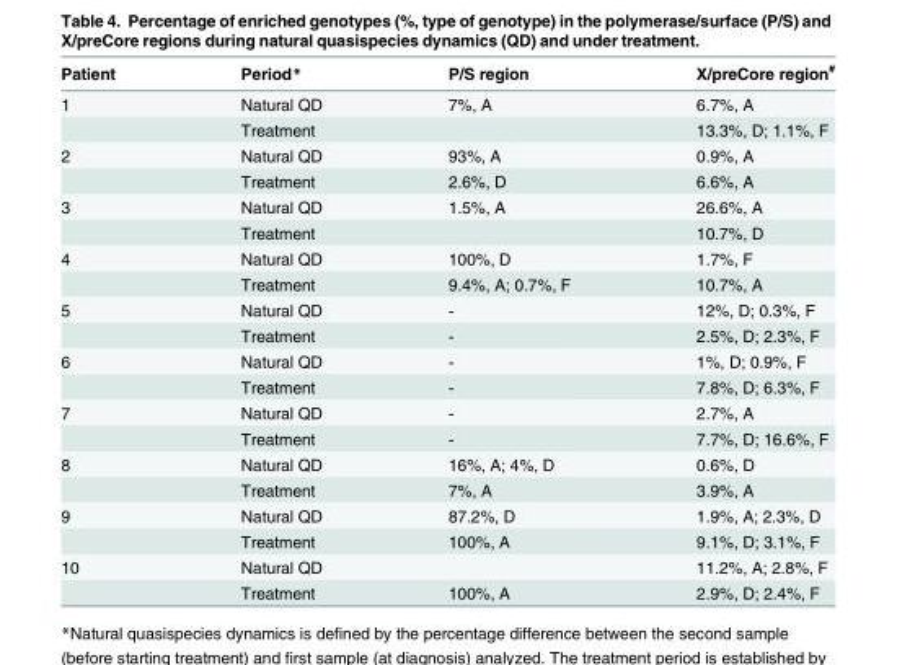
<table><thead><tr><td>Patient</td><td>Period*</td><td>P/S region</td><td>X/preCore region<sup>#</sup></td></tr></thead><tbody><tr><td rowspan="2">1</td><td>Natural QD</td><td>7%, A</td><td>6.7%, A</td></tr><tr><td>Treatment</td><td></td><td>13.3%, D; 1.1%, F</td></tr><tr><td rowspan="2">2</td><td>Natural QD</td><td>93%, A</td><td>0.9%, A</td></tr><tr><td>Treatment</td><td>2.6%, D</td><td>6.6%, A</td></tr><tr><td rowspan="2">3</td><td>Natural QD</td><td>1.5%, A</td><td>26.6%, A</td></tr><tr><td>Treatment</td><td></td><td>10.7%, D</td></tr><tr><td rowspan="2">4</td><td>Natural QD</td><td>100%, D</td><td>1.7%, F</td></tr><tr><td>Treatment</td><td>9.4%, A; 0.7%, F</td><td>10.7%, A</td></tr><tr><td rowspan="2">5</td><td>Natural QD</td><td>-</td><td>12%, D; 0.3%, F</td></tr><tr><td>Treatment</td><td>-</td><td>2.5%, D; 2.3%, F</td></tr><tr><td rowspan="2">6</td><td>Natural QD</td><td>-</td><td>1%, D; 0.9%, F</td></tr><tr><td>Treatment</td><td>-</td><td>7.8%, D; 6.3%, F</td></tr><tr><td rowspan="2">7</td><td>Natural QD</td><td>-</td><td>2.7%, A</td></tr><tr><td>Treatment</td><td>-</td><td>7.7%, D; 16.6%, F</td></tr><tr><td rowspan="2">8</td><td>Natural QD</td><td>16%, A; 4%, D</td><td>0.6%, D</td></tr><tr><td>Treatment</td><td>7%, A</td><td>3.9%, A</td></tr><tr><td rowspan="2">9</td><td>Natural QD</td><td>87.2%, D</td><td>1.9%, A; 2.3%, D</td></tr><tr><td>Treatment</td><td>100%, A</td><td>9.1%, D; 3.1%, F</td></tr><tr><td rowspan="2">10</td><td>Natural QD</td><td></td><td>11.2%, A; 2.8%, F</td></tr><tr><td>Treatment</td><td>100%, A</td><td>2.9%, D; 2.4%, F</td></tr></tbody></table>